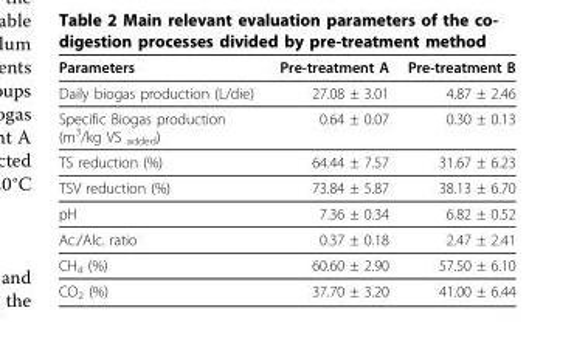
<table><thead><tr><td>Parameters</td><td>Pre-treatment A</td><td>Pre-treatment B</td></tr></thead><tbody><tr><td>Daily biogas production (L/die)</td><td>27.08 ± 3.01</td><td>4.87 ± 2.46</td></tr><tr><td>Specific Biogas production (m<sup>3</sup>/kg VS <sub>added</sub>)</td><td>0.64 ± 0.07</td><td>0.30 ± 0.13</td></tr><tr><td>TS reduction (%)</td><td>64.44 ± 7.57</td><td>31.67 ± 6.23</td></tr><tr><td>TSV reduction (%)</td><td>73.84 ± 5.87</td><td>38.13 ± 6.70</td></tr><tr><td>pH</td><td>7.36 ± 0.34</td><td>6.82 ± 0.52</td></tr><tr><td>Ac./Alc. ratio</td><td>0.37 ± 0.18</td><td>2.47 ± 2.41</td></tr><tr><td>CH<sub>4</sub> (%)</td><td>60.60 ± 2.90</td><td>57.50 ± 6.10</td></tr><tr><td>CO<sub>2</sub> (%)</td><td>37.70 ± 3.20</td><td>41.00 ± 6.44</td></tr></tbody></table>